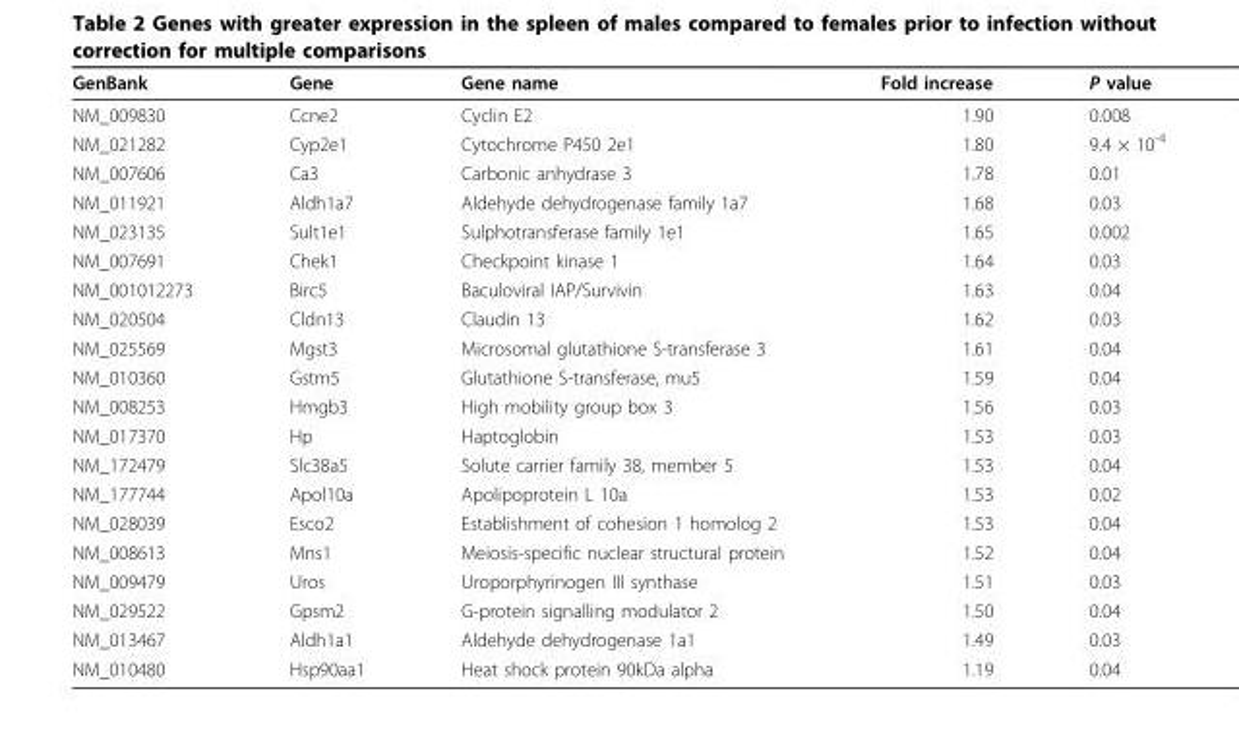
<table><thead><tr><td>GenBank</td><td>Gene</td><td>Gene name</td><td>Fold increase</td><td>P value</td></tr></thead><tbody><tr><td>NM_009830</td><td>Ccne2</td><td>Cyclin E2</td><td>1.90</td><td>0.008</td></tr><tr><td>NM_021282</td><td>Cyp2e1</td><td>Cytochrome P450 2e1</td><td>1.80</td><td>9.4 × 10<sup>-4</sup></td></tr><tr><td>NM_007606</td><td>Ca3</td><td>Carbonic anhydrase 3</td><td>1.78</td><td>0.01</td></tr><tr><td>NM_011921</td><td>Aldh1a7</td><td>Aldehyde dehydrogenase family 1a7</td><td>1.68</td><td>0.03</td></tr><tr><td>NM_023135</td><td>Sult1e1</td><td>Sulphotransferase family 1e1</td><td>1.65</td><td>0.002</td></tr><tr><td>NM_007691</td><td>Chek1</td><td>Checkpoint kinase 1</td><td>1.64</td><td>0.03</td></tr><tr><td>NM_001012273</td><td>Birc5</td><td>Baculoviral IAP/Survivin</td><td>1.63</td><td>0.04</td></tr><tr><td>NM_020504</td><td>Cldn13</td><td>Claudin 13</td><td>1.62</td><td>0.03</td></tr><tr><td>NM_025569</td><td>Mgst3</td><td>Microsomal glutathione S-transferase 3</td><td>1.61</td><td>0.04</td></tr><tr><td>NM_010360</td><td>Gstm5</td><td>Glutathione S-transferase, mu5</td><td>1.59</td><td>0.04</td></tr><tr><td>NM_008253</td><td>Hmgb3</td><td>High mobility group box 3</td><td>1.56</td><td>0.03</td></tr><tr><td>NM_017370</td><td>Hp</td><td>Haptoglobin</td><td>1.53</td><td>0.03</td></tr><tr><td>NM_172479</td><td>Slc38a5</td><td>Solute carrier family 38, member 5</td><td>1.53</td><td>0.04</td></tr><tr><td>NM_177744</td><td>Apol10a</td><td>Apolipoprotein L 10a</td><td>1.53</td><td>0.02</td></tr><tr><td>NM_028039</td><td>Esco2</td><td>Establishment of cohesion 1 homolog 2</td><td>1.53</td><td>0.04</td></tr><tr><td>NM_008613</td><td>Mns1</td><td>Meiosis-specific nuclear structural protein</td><td>1.52</td><td>0.04</td></tr><tr><td>NM_009479</td><td>Uros</td><td>Uroporphyrinogen III synthase</td><td>1.51</td><td>0.03</td></tr><tr><td>NM_029522</td><td>Gpsm2</td><td>G-protein signalling modulator 2</td><td>1.50</td><td>0.04</td></tr><tr><td>NM_013467</td><td>Aldh1a1</td><td>Aldehyde dehydrogenase 1a1</td><td>1.49</td><td>0.03</td></tr><tr><td>NM_010480</td><td>Hsp90aa1</td><td>Heat shock protein 90kDa alpha</td><td>1.19</td><td>0.04</td></tr></tbody></table>